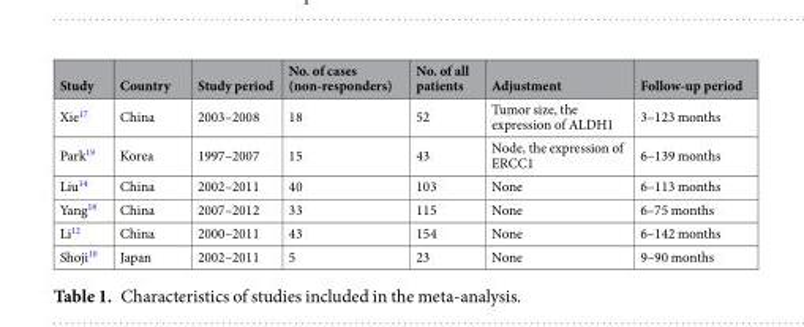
<table><thead><tr><td>Study</td><td>Country</td><td>Study period</td><td>No. of cases (non-responders)</td><td>No. of all patients</td><td>Adjustment</td><td>Follow-up period</td></tr></thead><tbody><tr><td>Xie<sup>17</sup></td><td>China</td><td>2003–2008</td><td>18</td><td>52</td><td>Tumor size, the expression of ALDH1</td><td>3–123 months</td></tr><tr><td>Park<sup>19</sup></td><td>Korea</td><td>1997–2007</td><td>15</td><td>43</td><td>Node, the expression of ERCC1</td><td>6–139 months</td></tr><tr><td>Liu<sup>14</sup></td><td>China</td><td>2002–2011</td><td>40</td><td>103</td><td>None</td><td>6–113 months</td></tr><tr><td>Yang<sup>18</sup></td><td>China</td><td>2007–2012</td><td>33</td><td>115</td><td>None</td><td>6–75 months</td></tr><tr><td>Li<sup>12</sup></td><td>China</td><td>2000–2011</td><td>43</td><td>154</td><td>None</td><td>6–142 months</td></tr><tr><td>Shoji<sup>10</sup></td><td>Japan</td><td>2002–2011</td><td>5</td><td>23</td><td>None</td><td>9–90 months</td></tr></tbody></table>